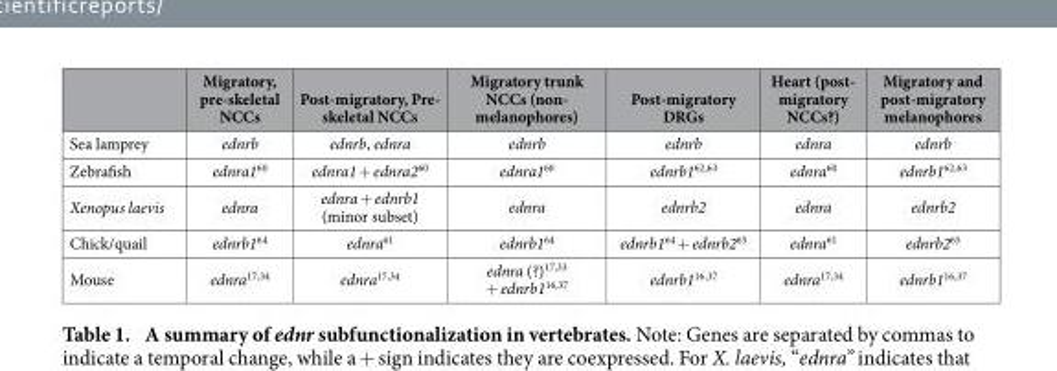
<table><thead><tr><td></td><td>Migratory, pre-skeletal NCCs</td><td>Post-migratory, Pre- skeletal NCCs</td><td>Migratory trunk NCCs (non- melanophores)</td><td>Post-migratory DRGs</td><td>Heart (post- migratory NCCs?)</td><td>Migratory and post-migratory melanophores</td></tr></thead><tbody><tr><td>Sea lamprey</td><td>ednrb</td><td>ednrb, ednra</td><td>ednrb</td><td>ednrb</td><td>ednra</td><td>ednrb</td></tr><tr><td>Zebrafish</td><td>ednra1<sup>60</sup></td><td>ednra1 + ednra2<sup>60</sup></td><td>ednra1<sup>60</sup></td><td>ednrb1<sup>62</sup>,<sup>63</sup></td><td>ednra<sup>60</sup></td><td>ednrb1<sup>62</sup>,<sup>63</sup></td></tr><tr><td>Xenopus laevis</td><td>ednra</td><td>ednra + ednrb1 (minor subset)</td><td>ednra</td><td>ednrb2</td><td>ednra</td><td>ednrb2</td></tr><tr><td>Chick/quail</td><td>ednrb1<sup>64</sup></td><td>ednra<sup>61</sup></td><td>ednrb1<sup>64</sup></td><td>ednrb1<sup>64</sup> + ednrb2<sup>65</sup></td><td>ednra<sup>61</sup></td><td>ednrb2<sup>65</sup></td></tr><tr><td>Mouse</td><td>ednra<sup>17</sup>,<sup>34</sup></td><td>ednra<sup>17</sup>,<sup>34</sup></td><td>ednra (?)<sup>17</sup>,<sup>33</sup> + ednrb1<sup>16</sup>,<sup>37</sup></td><td>ednrb1<sup>16</sup>,<sup>37</sup></td><td>ednra<sup>17</sup>,<sup>34</sup></td><td>ednrb1<sup>16</sup>,<sup>37</sup></td></tr></tbody></table>